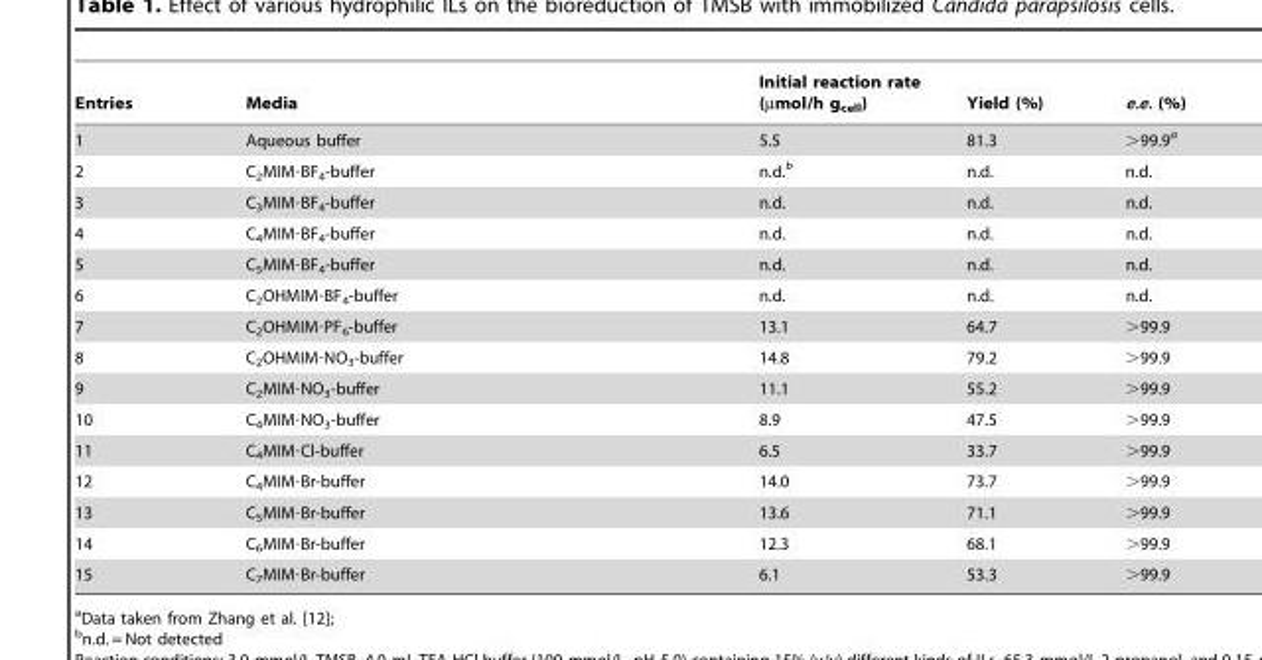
<table><thead><tr><td>Entries</td><td>Media</td><td>Initial reaction rate (µmol/h g<sub>cell</sub>)</td><td>Yield (%)</td><td>e.e. (%)</td></tr></thead><tbody><tr><td>1</td><td>Aqueous buffer</td><td>5.5</td><td>81.3</td><td>&gt;99.9<sup>a</sup></td></tr><tr><td>2</td><td>C<sub>2</sub>MIM·BF<sub>4</sub>-buffer</td><td>n.d.<sup>b</sup></td><td>n.d.</td><td>n.d.</td></tr><tr><td>3</td><td>C<sub>3</sub>MIM·BF<sub>4</sub>-buffer</td><td>n.d.</td><td>n.d.</td><td>n.d.</td></tr><tr><td>4</td><td>C<sub>4</sub>MIM·BF<sub>4</sub>-buffer</td><td>n.d.</td><td>n.d.</td><td>n.d.</td></tr><tr><td>5</td><td>C<sub>5</sub>MIM·BF<sub>4</sub>-buffer</td><td>n.d.</td><td>n.d.</td><td>n.d.</td></tr><tr><td>6</td><td>C<sub>2</sub>OHMIM·BF<sub>4</sub>-buffer</td><td>n.d.</td><td>n.d.</td><td>n.d.</td></tr><tr><td>7</td><td>C<sub>2</sub>OHMIM·PF<sub>6</sub>-buffer</td><td>13.1</td><td>64.7</td><td>&gt;99.9</td></tr><tr><td>8</td><td>C<sub>2</sub>OHMIM·NO<sub>3</sub>-buffer</td><td>14.8</td><td>79.2</td><td>&gt;99.9</td></tr><tr><td>9</td><td>C<sub>2</sub>MIM·NO<sub>3</sub>-buffer</td><td>11.1</td><td>55.2</td><td>&gt;99.9</td></tr><tr><td>10</td><td>C<sub>4</sub>MIM·NO<sub>3</sub>-buffer</td><td>8.9</td><td>47.5</td><td>&gt;99.9</td></tr><tr><td>11</td><td>C<sub>4</sub>MIM·Cl-buffer</td><td>6.5</td><td>33.7</td><td>&gt;99.9</td></tr><tr><td>12</td><td>C<sub>4</sub>MIM·Br-buffer</td><td>14.0</td><td>73.7</td><td>&gt;99.9</td></tr><tr><td>13</td><td>C<sub>5</sub>MIM·Br-buffer</td><td>13.6</td><td>71.1</td><td>&gt;99.9</td></tr><tr><td>14</td><td>C<sub>6</sub>MIM·Br-buffer</td><td>12.3</td><td>68.1</td><td>&gt;99.9</td></tr><tr><td>15</td><td>C<sub>7</sub>MIM·Br-buffer</td><td>6.1</td><td>53.3</td><td>&gt;99.9</td></tr></tbody></table>